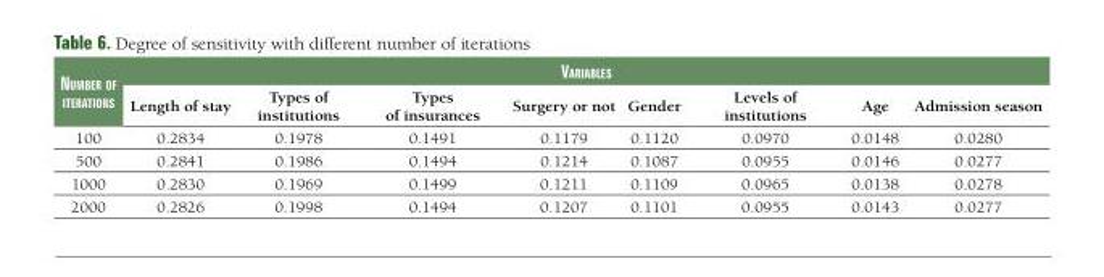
<table><thead><tr><td rowspan="2">number of iTeraTions</td><td colspan="8">Variables</td></tr><tr><td>Length of stay</td><td>Types of institutions</td><td>Types of insurances</td><td>Surgery or not</td><td>Gender</td><td>Levels of institutions</td><td>Age</td><td>Admission season</td></tr></thead><tbody><tr><td>100</td><td>0.2834</td><td>0.1978</td><td>0.1491</td><td>0.1179</td><td>0.1120</td><td>0.0970</td><td>0.0148</td><td>0.0280</td></tr><tr><td>500</td><td>0.2841</td><td>0.1986</td><td>0.1494</td><td>0.1214</td><td>0.1087</td><td>0.0955</td><td>0.0146</td><td>0.0277</td></tr><tr><td>1000</td><td>0.2830</td><td>0.1969</td><td>0.1499</td><td>0.1211</td><td>0.1109</td><td>0.0965</td><td>0.0138</td><td>0.0278</td></tr><tr><td>2000</td><td>0.2826</td><td>0.1998</td><td>0.1494</td><td>0.1207</td><td>0.1101</td><td>0.0955</td><td>0.0143</td><td>0.0277</td></tr></tbody></table>